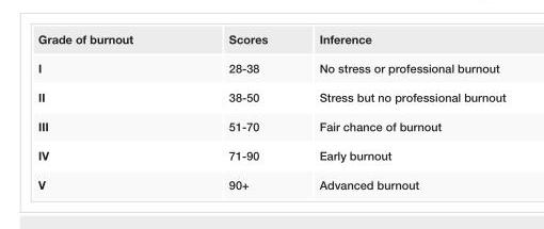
<table><tbody><tr><td>Grade of burnout</td><td>Scores</td><td>Inference</td></tr><tr><td>I</td><td>28-38</td><td>No stress or professional burnout</td></tr><tr><td>II</td><td>38-50</td><td>Stress but no professional burnout</td></tr><tr><td>III</td><td>51-70</td><td>Fair chance of burnout</td></tr><tr><td>IV</td><td>71-90</td><td>Early burnout</td></tr><tr><td>V</td><td>90+</td><td>Advanced burnout</td></tr></tbody></table>